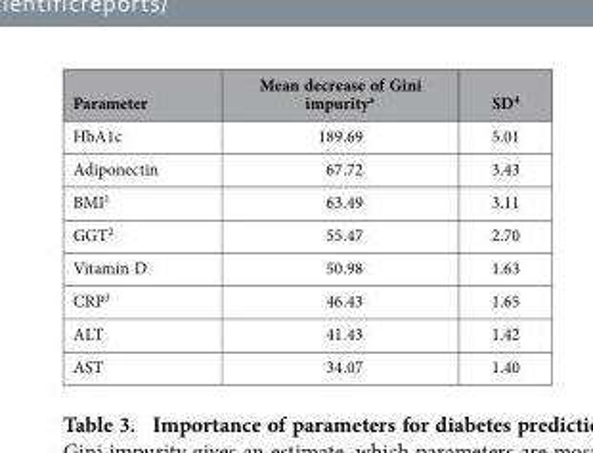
<table><thead><tr><td>Parameter</td><td>Mean decrease of Gini impurity*</td><td>SD<sup>4</sup></td></tr></thead><tbody><tr><td>HbA1c</td><td>189.69</td><td>5.01</td></tr><tr><td>Adiponectin</td><td>67.72</td><td>3.43</td></tr><tr><td>BMI<sup>1</sup></td><td>63.49</td><td>3.11</td></tr><tr><td>GGT<sup>2</sup></td><td>55.47</td><td>2.70</td></tr><tr><td>Vitamin D</td><td>50.98</td><td>1.63</td></tr><tr><td>CRP<sup>3</sup></td><td>46.43</td><td>1.65</td></tr><tr><td>ALT</td><td>41.43</td><td>1.42</td></tr><tr><td>AST</td><td>34.07</td><td>1.40</td></tr></tbody></table>